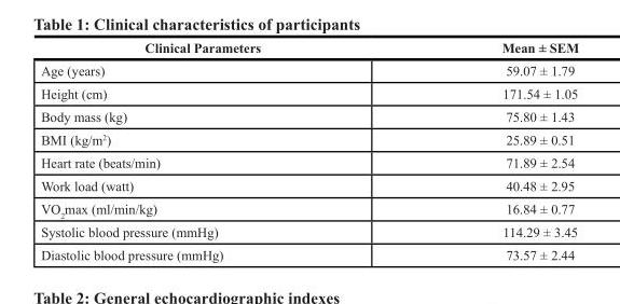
<table><thead><tr><td>Clinical Parameters</td><td>Mean ± SEM</td></tr></thead><tbody><tr><td>Age (years)</td><td>59.07 ± 1.79</td></tr><tr><td>Height (cm)</td><td>171.54 ± 1.05</td></tr><tr><td>Body mass (kg)</td><td>75.80 ± 1.43</td></tr><tr><td>BMI (kg/m<sup>2</sup>)</td><td>25.89 ± 0.51</td></tr><tr><td>Heart rate (beats/min)</td><td>71.89 ± 2.54</td></tr><tr><td>Work load (watt)</td><td>40.48 ± 2.95</td></tr><tr><td>VO<sub>2</sub>max (ml/min/kg)</td><td>16.84 ± 0.77</td></tr><tr><td>Systolic blood pressure (mmHg)</td><td>114.29 ± 3.45</td></tr><tr><td>Diastolic blood pressure (mmHg)</td><td>73.57 ± 2.44</td></tr></tbody></table>